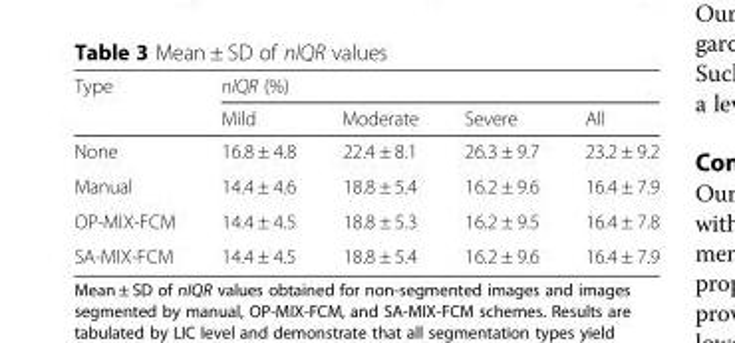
<table><thead><tr><td rowspan="2">Type</td><td colspan="4">nIQR (%)</td></tr><tr><td>Mild</td><td>Moderate</td><td>Severe</td><td>All</td></tr></thead><tbody><tr><td>None</td><td>16.8 ± 4.8</td><td>22.4 ± 8.1</td><td>26.3 ± 9.7</td><td>23.2 ± 9.2</td></tr><tr><td>Manual</td><td>14.4 ± 4.6</td><td>18.8 ± 5.4</td><td>16.2 ± 9.6</td><td>16.4 ± 7.9</td></tr><tr><td>OP-MIX-FCM</td><td>14.4 ± 4.5</td><td>18.8 ± 5.3</td><td>16.2 ± 9.5</td><td>16.4 ± 7.8</td></tr><tr><td>SA-MIX-FCM</td><td>14.4 ± 4.5</td><td>18.8 ± 5.4</td><td>16.2 ± 9.6</td><td>16.4 ± 7.9</td></tr></tbody></table>